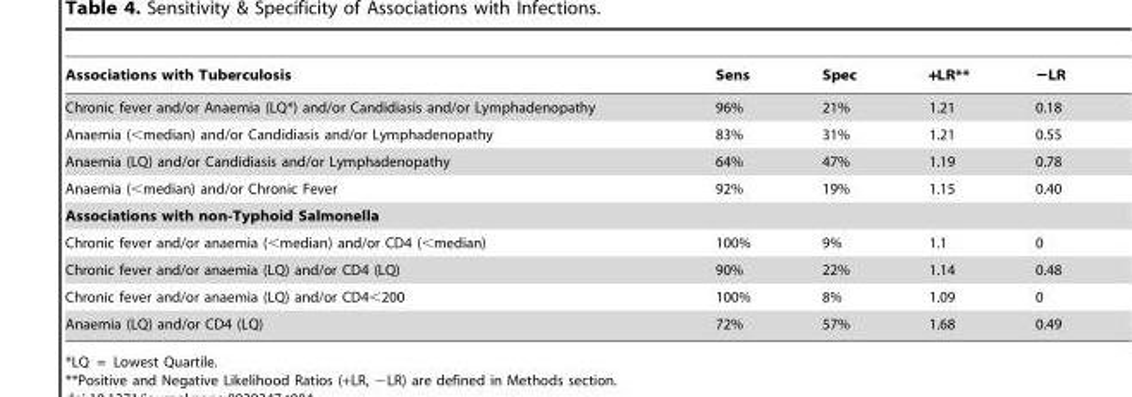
<table><thead><tr><td>Associations with Tuberculosis</td><td>Sens</td><td>Spec</td><td>+LR**</td><td>−LR</td></tr></thead><tbody><tr><td>Chronic fever and/or Anaemia (LQ*) and/or Candidiasis and/or Lymphadenopathy</td><td>96%</td><td>21%</td><td>1.21</td><td>0.18</td></tr><tr><td>Anaemia (&lt;median) and/or Candidiasis and/or Lymphadenopathy</td><td>83%</td><td>31%</td><td>1.21</td><td>0.55</td></tr><tr><td>Anaemia (LQ) and/or Candidiasis and/or Lymphadenopathy</td><td>64%</td><td>47%</td><td>1.19</td><td>0.78</td></tr><tr><td>Anaemia (&lt;median) and/or Chronic Fever</td><td>92%</td><td>19%</td><td>1.15</td><td>0.40</td></tr><tr><td colspan="5">Associations with non-Typhoid Salmonella</td></tr><tr><td>Chronic fever and/or anaemia (&lt;median) and/or CD4 (&lt;median)</td><td>100%</td><td>9%</td><td>1.1</td><td>0</td></tr><tr><td>Chronic fever and/or anaemia (LQ) and/or CD4 (LQ)</td><td>90%</td><td>22%</td><td>1.14</td><td>0.48</td></tr><tr><td>Chronic fever and/or anaemia (LQ) and/or CD4&lt;200</td><td>100%</td><td>8%</td><td>1.09</td><td>0</td></tr><tr><td>Anaemia (LQ) and/or CD4 (LQ)</td><td>72%</td><td>57%</td><td>1.68</td><td>0.49</td></tr></tbody></table>